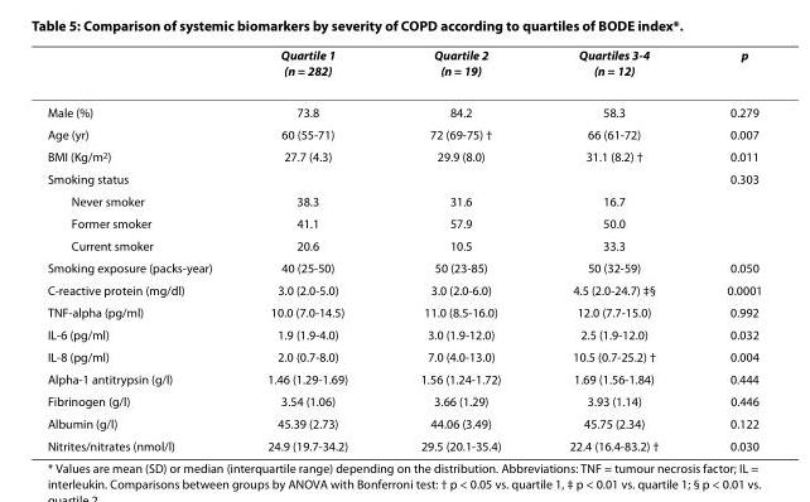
<table><thead><tr><td></td><td>Quartile 1 (n = 282)</td><td>Quartile 2 (n = 19)</td><td>Quartiles 3-4 (n = 12)</td><td>p</td></tr></thead><tbody><tr><td>Male (%)</td><td>73.8</td><td>84.2</td><td>58.3</td><td>0.279</td></tr><tr><td>Age (yr)</td><td>60 (55-71)</td><td>72 (69-75) †</td><td>66 (61-72)</td><td>0.007</td></tr><tr><td>BMI (Kg/m<sup>2</sup>)</td><td>27.7 (4.3)</td><td>29.9 (8.0)</td><td>31.1 (8.2) †</td><td>0.011</td></tr><tr><td>Smoking status</td><td></td><td></td><td></td><td>0.303</td></tr><tr><td>Never smoker</td><td>38.3</td><td>31.6</td><td>16.7</td><td></td></tr><tr><td>Former smoker</td><td>41.1</td><td>57.9</td><td>50.0</td><td></td></tr><tr><td>Current smoker</td><td>20.6</td><td>10.5</td><td>33.3</td><td></td></tr><tr><td>Smoking exposure (packs-year)</td><td>40 (25-50)</td><td>50 (23-85)</td><td>50 (32-59)</td><td>0.050</td></tr><tr><td>C-reactive protein (mg/dl)</td><td>3.0 (2.0-5.0)</td><td>3.0 (2.0-6.0)</td><td>4.5 (2.0-24.7) ‡§</td><td>0.0001</td></tr><tr><td>TNF-alpha (pg/ml)</td><td>10.0 (7.0-14.5)</td><td>11.0 (8.5-16.0)</td><td>12.0 (7.7-15.0)</td><td>0.992</td></tr><tr><td>IL-6 (pg/ml)</td><td>1.9 (1.9-4.0)</td><td>3.0 (1.9-12.0)</td><td>2.5 (1.9-12.0)</td><td>0.032</td></tr><tr><td>IL-8 (pg/ml)</td><td>2.0 (0.7-8.0)</td><td>7.0 (4.0-13.0)</td><td>10.5 (0.7-25.2) †</td><td>0.004</td></tr><tr><td>Alpha-1 antitrypsin (g/l)</td><td>1.46 (1.29-1.69)</td><td>1.56 (1.24-1.72)</td><td>1.69 (1.56-1.84)</td><td>0.444</td></tr><tr><td>Fibrinogen (g/l)</td><td>3.54 (1.06)</td><td>3.66 (1.29)</td><td>3.93 (1.14)</td><td>0.446</td></tr><tr><td>Albumin (g/l)</td><td>45.39 (2.73)</td><td>44.06 (3.49)</td><td>45.75 (2.34)</td><td>0.122</td></tr><tr><td>Nitrites/nitrates (nmol/l)</td><td>24.9 (19.7-34.2)</td><td>29.5 (20.1-35.4)</td><td>22.4 (16.4-83.2) †</td><td>0.030</td></tr></tbody></table>